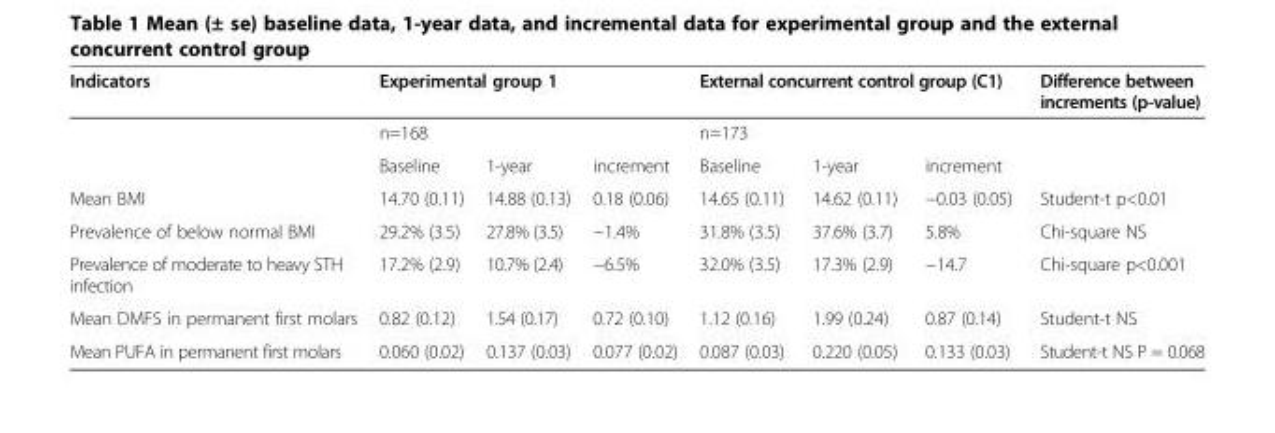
<table><thead><tr><td rowspan="3">Indicators</td><td rowspan="2" colspan="3">Experimental group 1 n=168</td><td rowspan="2" colspan="3">External concurrent control group (C1) n=173</td><td rowspan="3">Difference between increments (p-value)</td></tr><tr></tr><tr><td>Baseline</td><td>1-year</td><td>increment</td><td>Baseline</td><td>1-year</td><td>increment</td></tr></thead><tbody><tr><td>Mean BMI</td><td>14.70 (0.11)</td><td>14.88 (0.13)</td><td>0.18 (0.06)</td><td>14.65 (0.11)</td><td>14.62 (0.11)</td><td>−0.03 (0.05)</td><td>Student-t p&lt;0.01</td></tr><tr><td>Prevalence of below normal BMI</td><td>29.2% (3.5)</td><td>27.8% (3.5)</td><td>−1.4%</td><td>31.8% (3.5)</td><td>37.6% (3.7)</td><td>5.8%</td><td>Chi-square NS</td></tr><tr><td>Prevalence of moderate to heavy STH infection</td><td>17.2% (2.9)</td><td>10.7% (2.4)</td><td>−6.5%</td><td>32.0% (3.5)</td><td>17.3% (2.9)</td><td>−14.7</td><td>Chi-square p&lt;0.001</td></tr><tr><td>Mean DMFS in permanent first molars</td><td>0.82 (0.12)</td><td>1.54 (0.17)</td><td>0.72 (0.10)</td><td>1.12 (0.16)</td><td>1.99 (0.24)</td><td>0.87 (0.14)</td><td>Student-t NS</td></tr><tr><td>Mean PUFA in permanent first molars</td><td>0.060 (0.02)</td><td>0.137 (0.03)</td><td>0.077 (0.02)</td><td>0.087 (0.03)</td><td>0.220 (0.05)</td><td>0.133 (0.03)</td><td>Student-t NS P = 0.068</td></tr></tbody></table>